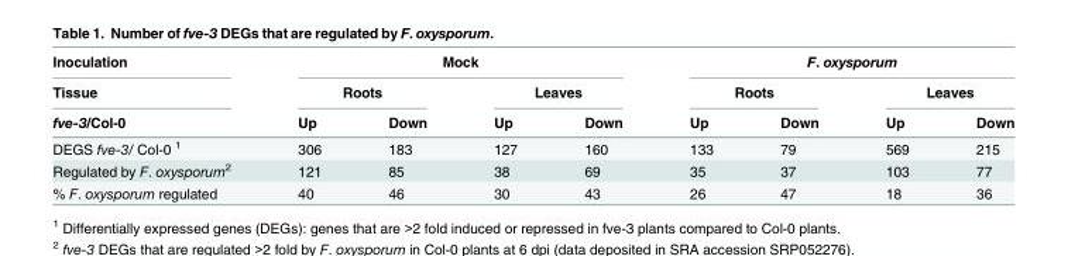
<table><thead><tr><td rowspan="3">Inoculation Tissue fve-3/Col-0</td><td colspan="4">Mock</td><td colspan="4">F. oxysporum</td></tr><tr><td colspan="2">Roots</td><td colspan="2">Leaves</td><td colspan="2">Roots</td><td colspan="2">Leaves</td></tr><tr><td>Up</td><td>Down</td><td>Up</td><td>Down</td><td>Up</td><td>Down</td><td>Up</td><td>Down</td></tr></thead><tbody><tr><td>DEGS fve-3/ Col-0 <sup>1</sup></td><td>306</td><td>183</td><td>127</td><td>160</td><td>133</td><td>79</td><td>569</td><td>215</td></tr><tr><td>Regulated by F. oxysporum<sup>2</sup></td><td>121</td><td>85</td><td>38</td><td>69</td><td>35</td><td>37</td><td>103</td><td>77</td></tr><tr><td>% F. oxysporum regulated</td><td>40</td><td>46</td><td>30</td><td>43</td><td>26</td><td>47</td><td>18</td><td>36</td></tr></tbody></table>